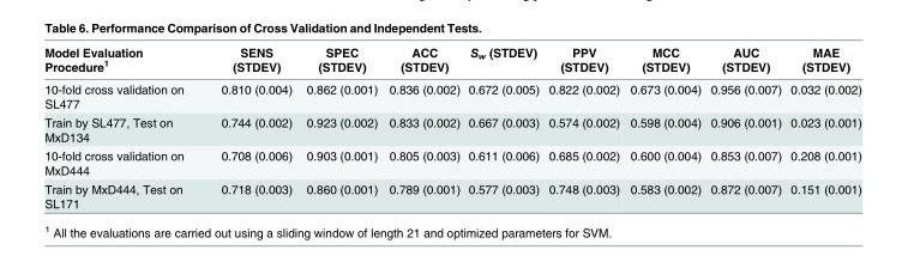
<table><thead><tr><td>Model Evaluation Procedure<sup>1</sup></td><td>SENS (STDEV)</td><td>SPEC (STDEV)</td><td>ACC (STDEV)</td><td>S<sub>w</sub> (STDEV)</td><td>PPV (STDEV)</td><td>MCC (STDEV)</td><td>AUC (STDEV)</td><td>MAE (STDEV)</td></tr></thead><tbody><tr><td>10-fold cross validation on SL477</td><td>0.810 (0.004)</td><td>0.862 (0.001)</td><td>0.836 (0.002)</td><td>0.672 (0.005)</td><td>0.822 (0.002)</td><td>0.673 (0.004)</td><td>0.956 (0.007)</td><td>0.032 (0.002)</td></tr><tr><td>Train by SL477, Test on MxD134</td><td>0.744 (0.002)</td><td>0.923 (0.002)</td><td>0.833 (0.002)</td><td>0.667 (0.003)</td><td>0.574 (0.002)</td><td>0.598 (0.004)</td><td>0.906 (0.001)</td><td>0.023 (0.001)</td></tr><tr><td>10-fold cross validation on MxD444</td><td>0.708 (0.006)</td><td>0.903 (0.001)</td><td>0.805 (0.003)</td><td>0.611 (0.006)</td><td>0.685 (0.002)</td><td>0.600 (0.004)</td><td>0.853 (0.007)</td><td>0.208 (0.001)</td></tr><tr><td>Train by MxD444, Test on SL171</td><td>0.718 (0.003)</td><td>0.860 (0.001)</td><td>0.789 (0.001)</td><td>0.577 (0.003)</td><td>0.748 (0.003)</td><td>0.583 (0.002)</td><td>0.872 (0.007)</td><td>0.151 (0.001)</td></tr></tbody></table>